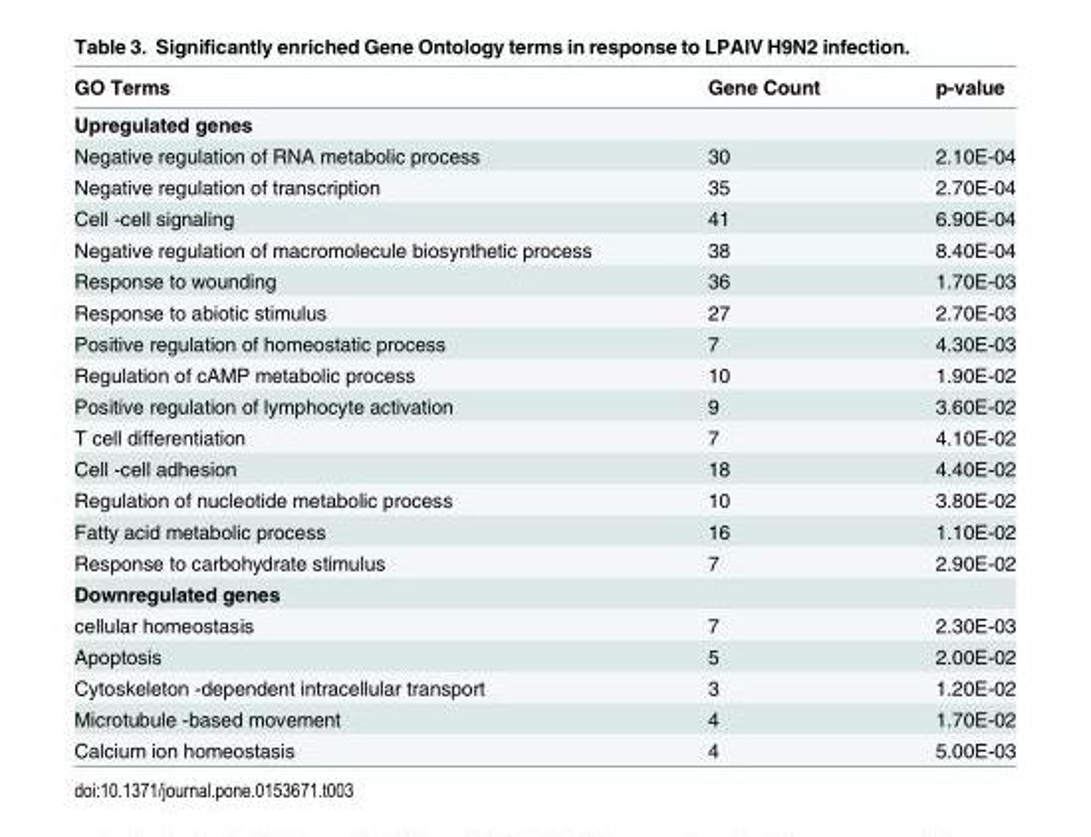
<table><thead><tr><td>GO Terms</td><td>Gene Count</td><td>p-value</td></tr></thead><tbody><tr><td colspan="3">Upregulated genes</td></tr><tr><td>Negative regulation of RNA metabolic process</td><td>30</td><td>2.10E-04</td></tr><tr><td>Negative regulation of transcription</td><td>35</td><td>2.70E-04</td></tr><tr><td>Cell -cell signaling</td><td>41</td><td>6.90E-04</td></tr><tr><td>Negative regulation of macromolecule biosynthetic process</td><td>38</td><td>8.40E-04</td></tr><tr><td>Response to wounding</td><td>36</td><td>1.70E-03</td></tr><tr><td>Response to abiotic stimulus</td><td>27</td><td>2.70E-03</td></tr><tr><td>Positive regulation of homeostatic process</td><td>7</td><td>4.30E-03</td></tr><tr><td>Regulation of cAMP metabolic process</td><td>10</td><td>1.90E-02</td></tr><tr><td>Positive regulation of lymphocyte activation</td><td>9</td><td>3.60E-02</td></tr><tr><td>T cell differentiation</td><td>7</td><td>4.10E-02</td></tr><tr><td>Cell -cell adhesion</td><td>18</td><td>4.40E-02</td></tr><tr><td>Regulation of nucleotide metabolic process</td><td>10</td><td>3.80E-02</td></tr><tr><td>Fatty acid metabolic process</td><td>16</td><td>1.10E-02</td></tr><tr><td>Response to carbohydrate stimulus</td><td>7</td><td>2.90E-02</td></tr><tr><td colspan="3">Downregulated genes</td></tr><tr><td>cellular homeostasis</td><td>7</td><td>2.30E-03</td></tr><tr><td>Apoptosis</td><td>5</td><td>2.00E-02</td></tr><tr><td>Cytoskeleton -dependent intracellular transport</td><td>3</td><td>1.20E-02</td></tr><tr><td>Microtubule -based movement</td><td>4</td><td>1.70E-02</td></tr><tr><td>Calcium ion homeostasis</td><td>4</td><td>5.00E-03</td></tr></tbody></table>